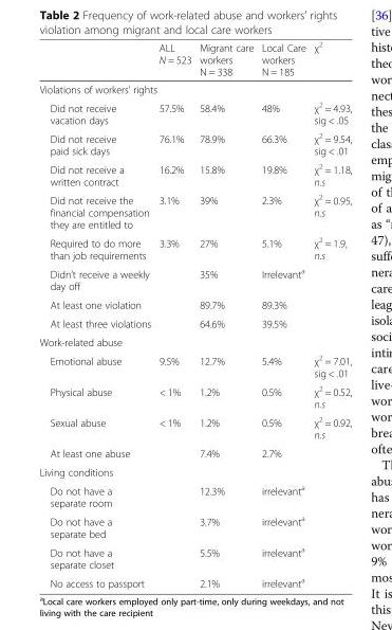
<table><thead><tr><td></td><td>ALL N = 523</td><td>Migrant care workers N = 338</td><td>Local Care workers N = 185</td><td>χ<sup>2</sup></td></tr></thead><tbody><tr><td colspan="5">Violations of workers’ rights</td></tr><tr><td>Did not receive vacation days</td><td>57.5%</td><td>58.4%</td><td>48%</td><td>χ<sup>2</sup> = 4.93, sig &lt; .05</td></tr><tr><td>Did not receive paid sick days</td><td>76.1%</td><td>78.9%</td><td>66.3%</td><td>χ<sup>2</sup> = 9.54, sig &lt; .01</td></tr><tr><td>Did not receive a written contract</td><td>16.2%</td><td>15.8%</td><td>19.8%</td><td>χ<sup>2</sup> = 1.18, n.s</td></tr><tr><td>Did not receive the financial compensation they are entitled to</td><td>3.1%</td><td>39%</td><td>2.3%</td><td>χ<sup>2</sup> = 0.95, n.s</td></tr><tr><td>Required to do more than job requirements</td><td>3.3%</td><td>27%</td><td>5.1%</td><td>χ<sup>2</sup> = 1.9, n.s</td></tr><tr><td>Didn’t receive a weekly day off</td><td></td><td>35%</td><td>Irrelevant<sup>a</sup></td><td></td></tr><tr><td>At least one violation</td><td></td><td>89.7%</td><td>89.3%</td><td></td></tr><tr><td>At least three violations</td><td></td><td>64.6%</td><td>39.5%</td><td></td></tr><tr><td colspan="5">Work-related abuse</td></tr><tr><td>Emotional abuse</td><td>9.5%</td><td>12.7%</td><td>5.4%</td><td>χ<sup>2</sup> = 7.01, sig &lt; .01</td></tr><tr><td>Physical abuse</td><td>&lt; 1%</td><td>1.2%</td><td>0.5%</td><td>χ<sup>2</sup> = 0.52, n.s</td></tr><tr><td>Sexual abuse</td><td>&lt; 1%</td><td>1.2%</td><td>0.5%</td><td>χ<sup>2</sup> = 0.92, n.s</td></tr><tr><td>At least one abuse</td><td></td><td>7.4%</td><td>2.7%</td><td></td></tr><tr><td colspan="5">Living conditions</td></tr><tr><td>Do not have a separate room</td><td></td><td>12.3%</td><td>irrelevant<sup>a</sup></td><td></td></tr><tr><td>Do not have a separate bed</td><td></td><td>3.7%</td><td>irrelevant<sup>a</sup></td><td></td></tr><tr><td>Do not have a separate closet</td><td></td><td>5.5%</td><td>irrelevant<sup>a</sup></td><td></td></tr><tr><td>No access to passport</td><td></td><td>2.1%</td><td>irrelevant<sup>a</sup></td><td></td></tr></tbody></table>